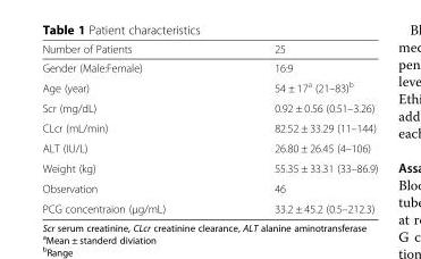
<table><thead><tr><td>Number of Patients</td><td>25</td></tr></thead><tbody><tr><td>Gender (Male:Female)</td><td>16:9</td></tr><tr><td>Age (year)</td><td>54 ± 17<sup>a</sup> (21–83)<sup>b</sup></td></tr><tr><td>Scr (mg/dL)</td><td>0.92 ± 0.56 (0.51–3.26)</td></tr><tr><td>CLcr (mL/min)</td><td>82.52 ± 33.29 (11–144)</td></tr><tr><td>ALT (IU/L)</td><td>26.80 ± 26.45 (4–106)</td></tr><tr><td>Weight (kg)</td><td>55.35 ± 33.31 (33–86.9)</td></tr><tr><td>Observation</td><td>46</td></tr><tr><td>PCG concentraion (μg/mL)</td><td>33.2 ± 45.2 (0.5–212.3)</td></tr></tbody></table>